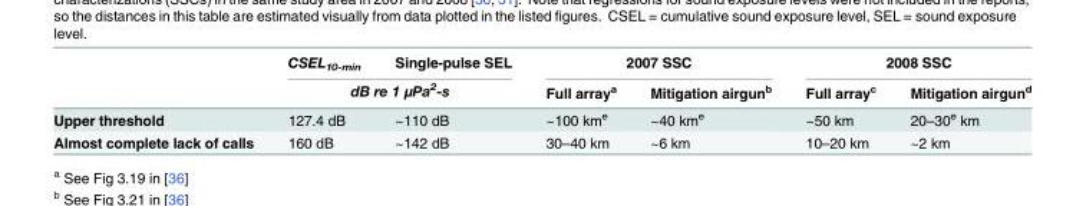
<table><thead><tr><td rowspan="2"></td><td>CSEL<sub>10-min</sub></td><td>Single-pulse SEL</td><td colspan="2">2007 SSC</td><td colspan="2">2008 SSC</td></tr><tr><td colspan="2">dB re 1 μPa<sup>2</sup>-s</td><td>Full array<sup>a</sup></td><td>Mitigation airgun<sup>b</sup></td><td>Full array<sup>c</sup></td><td>Mitigation airgun<sup>d</sup></td></tr></thead><tbody><tr><td>Upper threshold</td><td>127.4 dB</td><td>~110 dB</td><td>~100 km<sup>e</sup></td><td>~40 km<sup>e</sup></td><td>~50 km</td><td>20–30<sup>e</sup> km</td></tr><tr><td>Almost complete lack of calls</td><td>160 dB</td><td>~142 dB</td><td>30–40 km</td><td>~6 km</td><td>10–20 km</td><td>~2 km</td></tr></tbody></table>